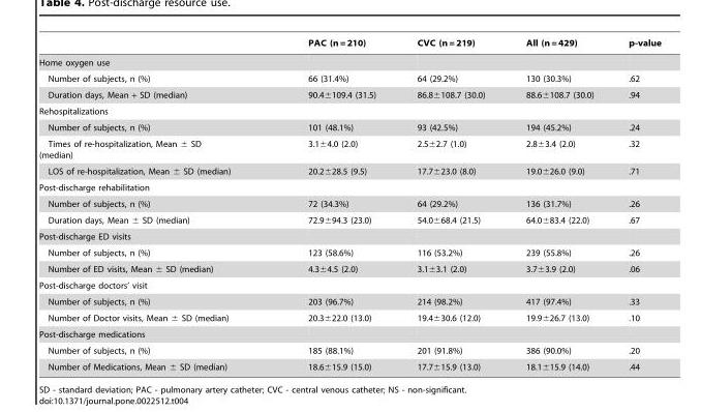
<table><thead><tr><td></td><td>PAC (n = 210)</td><td>CVC (n = 219)</td><td>All (n = 429)</td><td>p-value</td></tr></thead><tbody><tr><td colspan="5">Home oxygen use</td></tr><tr><td>Number of subjects, n (%)</td><td>66 (31.4%)</td><td>64 (29.2%)</td><td>130 (30.3%)</td><td>.62</td></tr><tr><td>Duration days, Mean + SD (median)</td><td>90.4±109.4 (31.5)</td><td>86.8±108.7 (30.0)</td><td>88.6±108.7 (30.0)</td><td>.94</td></tr><tr><td colspan="5">Rehospitalizations</td></tr><tr><td>Number of subjects, n (%)</td><td>101 (48.1%)</td><td>93 (42.5%)</td><td>194 (45.2%)</td><td>.24</td></tr><tr><td>Times of re-hospitalization, Mean ± SD (median)</td><td>3.1±4.0 (2.0)</td><td>2.5±2.7 (1.0)</td><td>2.8±3.4 (2.0)</td><td>.32</td></tr><tr><td>LOS of re-hospitalization, Mean ± SD (median)</td><td>20.2±28.5 (9.5)</td><td>17.7±23.0 (8.0)</td><td>19.0±26.0 (9.0)</td><td>.71</td></tr><tr><td colspan="5">Post-discharge rehabilitation</td></tr><tr><td>Number of subjects, n (%)</td><td>72 (34.3%)</td><td>64 (29.2%)</td><td>136 (31.7%)</td><td>.26</td></tr><tr><td>Duration days, Mean ± SD (median)</td><td>72.9±94.3 (23.0)</td><td>54.0±68.4 (21.5)</td><td>64.0±83.4 (22.0)</td><td>.67</td></tr><tr><td colspan="5">Post-discharge ED visits</td></tr><tr><td>Number of subjects, n (%)</td><td>123 (58.6%)</td><td>116 (53.2%)</td><td>239 (55.8%)</td><td>.26</td></tr><tr><td>Number of ED visits, Mean ± SD (median)</td><td>4.3±4.5 (2.0)</td><td>3.1±3.1 (2.0)</td><td>3.7±3.9 (2.0)</td><td>.06</td></tr><tr><td colspan="5">Post-discharge doctors’ visit</td></tr><tr><td>Number of subjects, n (%)</td><td>203 (96.7%)</td><td>214 (98.2%)</td><td>417 (97.4%)</td><td>.33</td></tr><tr><td>Number of Doctor visits, Mean ± SD (median)</td><td>20.3±22.0 (13.0)</td><td>19.4±30.6 (12.0)</td><td>19.9±26.7 (13.0)</td><td>.10</td></tr><tr><td colspan="5">Post-discharge medications</td></tr><tr><td>Number of subjects, n (%)</td><td>185 (88.1%)</td><td>201 (91.8%)</td><td>386 (90.0%)</td><td>.20</td></tr><tr><td>Number of Medications, Mean ± SD (median)</td><td>18.6±15.9 (15.0)</td><td>17.7±15.9 (13.0)</td><td>18.1±15.9 (14.0)</td><td>.44</td></tr></tbody></table>